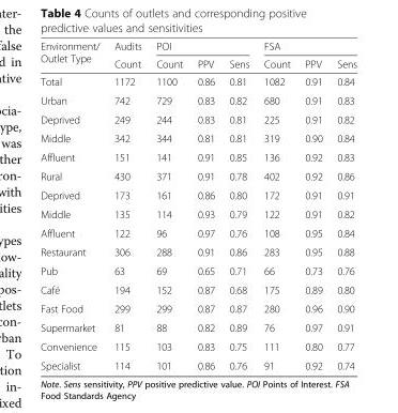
<table><thead><tr><td rowspan="2">Environment/ Outlet Type</td><td rowspan="2">Audits Count</td><td colspan="3">POI</td><td colspan="3">FSA</td></tr><tr><td>Count</td><td>PPV</td><td>Sens</td><td>Count</td><td>PPV</td><td>Sens</td></tr></thead><tbody><tr><td>Total</td><td>1172</td><td>1100</td><td>0.86</td><td>0.81</td><td>1082</td><td>0.91</td><td>0.84</td></tr><tr><td>Urban</td><td>742</td><td>729</td><td>0.83</td><td>0.82</td><td>680</td><td>0.91</td><td>0.83</td></tr><tr><td>Deprived</td><td>249</td><td>244</td><td>0.83</td><td>0.81</td><td>225</td><td>0.91</td><td>0.82</td></tr><tr><td>Middle</td><td>342</td><td>344</td><td>0.81</td><td>0.81</td><td>319</td><td>0.90</td><td>0.84</td></tr><tr><td>Affluent</td><td>151</td><td>141</td><td>0.91</td><td>0.85</td><td>136</td><td>0.92</td><td>0.83</td></tr><tr><td>Rural</td><td>430</td><td>371</td><td>0.91</td><td>0.78</td><td>402</td><td>0.92</td><td>0.86</td></tr><tr><td>Deprived</td><td>173</td><td>161</td><td>0.86</td><td>0.80</td><td>172</td><td>0.91</td><td>0.91</td></tr><tr><td>Middle</td><td>135</td><td>114</td><td>0.93</td><td>0.79</td><td>122</td><td>0.91</td><td>0.82</td></tr><tr><td>Affluent</td><td>122</td><td>96</td><td>0.97</td><td>0.76</td><td>108</td><td>0.95</td><td>0.84</td></tr><tr><td>Restaurant</td><td>306</td><td>288</td><td>0.91</td><td>0.86</td><td>283</td><td>0.95</td><td>0.88</td></tr><tr><td>Pub</td><td>63</td><td>69</td><td>0.65</td><td>0.71</td><td>66</td><td>0.73</td><td>0.76</td></tr><tr><td>Café</td><td>194</td><td>152</td><td>0.87</td><td>0.68</td><td>175</td><td>0.89</td><td>0.80</td></tr><tr><td>Fast Food</td><td>299</td><td>299</td><td>0.87</td><td>0.87</td><td>280</td><td>0.96</td><td>0.90</td></tr><tr><td>Supermarket</td><td>81</td><td>88</td><td>0.82</td><td>0.89</td><td>76</td><td>0.97</td><td>0.91</td></tr><tr><td>Convenience</td><td>115</td><td>103</td><td>0.83</td><td>0.75</td><td>111</td><td>0.80</td><td>0.77</td></tr><tr><td>Specialist</td><td>114</td><td>101</td><td>0.86</td><td>0.76</td><td>91</td><td>0.92</td><td>0.74</td></tr></tbody></table>